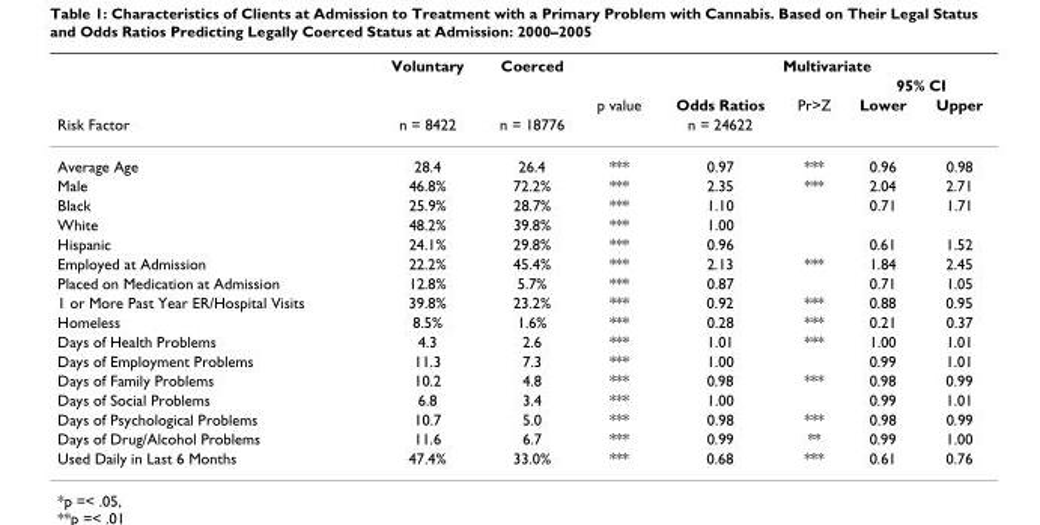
<table><thead><tr><td rowspan="4">Risk Factor</td><td rowspan="4">Voluntary n = 8422</td><td rowspan="4">Coerced n = 18776</td><td rowspan="4">p value</td><td colspan="4">Multivariate</td></tr><tr><td rowspan="3">Odds Ratios n = 24622</td><td rowspan="3">Pr&gt;Z</td><td colspan="2">95% CI</td></tr><tr><td rowspan="2">Lower</td><td rowspan="2">Upper</td></tr><tr></tr></thead><tbody><tr><td>Average Age</td><td>28.4</td><td>26.4</td><td>***</td><td>0.97</td><td>***</td><td>0.96</td><td>0.98</td></tr><tr><td>Male</td><td>46.8%</td><td>72.2%</td><td>***</td><td>2.35</td><td>***</td><td>2.04</td><td>2.71</td></tr><tr><td>Black</td><td>25.9%</td><td>28.7%</td><td>***</td><td>1.10</td><td></td><td>0.71</td><td>1.71</td></tr><tr><td>White</td><td>48.2%</td><td>39.8%</td><td>***</td><td>1.00</td><td></td><td></td><td></td></tr><tr><td>Hispanic</td><td>24.1%</td><td>29.8%</td><td>***</td><td>0.96</td><td></td><td>0.61</td><td>1.52</td></tr><tr><td>Employed at Admission</td><td>22.2%</td><td>45.4%</td><td>***</td><td>2.13</td><td>***</td><td>1.84</td><td>2.45</td></tr><tr><td>Placed on Medication at Admission</td><td>12.8%</td><td>5.7%</td><td>***</td><td>0.87</td><td></td><td>0.71</td><td>1.05</td></tr><tr><td>1 or More Past Year ER/Hospital Visits</td><td>39.8%</td><td>23.2%</td><td>***</td><td>0.92</td><td>***</td><td>0.88</td><td>0.95</td></tr><tr><td>Homeless</td><td>8.5%</td><td>1.6%</td><td>***</td><td>0.28</td><td>***</td><td>0.21</td><td>0.37</td></tr><tr><td>Days of Health Problems</td><td>4.3</td><td>2.6</td><td>***</td><td>1.01</td><td>***</td><td>1.00</td><td>1.01</td></tr><tr><td>Days of Employment Problems</td><td>11.3</td><td>7.3</td><td>***</td><td>1.00</td><td></td><td>0.99</td><td>1.01</td></tr><tr><td>Days of Family Problems</td><td>10.2</td><td>4.8</td><td>***</td><td>0.98</td><td>***</td><td>0.98</td><td>0.99</td></tr><tr><td>Days of Social Problems</td><td>6.8</td><td>3.4</td><td>***</td><td>1.00</td><td></td><td>0.99</td><td>1.01</td></tr><tr><td>Days of Psychological Problems</td><td>10.7</td><td>5.0</td><td>***</td><td>0.98</td><td>***</td><td>0.98</td><td>0.99</td></tr><tr><td>Days of Drug/Alcohol Problems</td><td>11.6</td><td>6.7</td><td>***</td><td>0.99</td><td>**</td><td>0.99</td><td>1.00</td></tr><tr><td>Used Daily in Last 6 Months</td><td>47.4%</td><td>33.0%</td><td>***</td><td>0.68</td><td>***</td><td>0.61</td><td>0.76</td></tr></tbody></table>